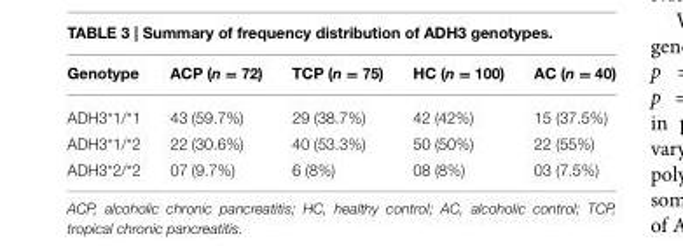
<table><thead><tr><td>Genotype</td><td>ACP (n = 72)</td><td>TCP (n = 75)</td><td>HC (n = 100)</td><td>AC (n = 40)</td></tr></thead><tbody><tr><td>ADH3*1/*1</td><td>43 (59.7%)</td><td>29 (38.7%)</td><td>42 (42%)</td><td>15 (37.5%)</td></tr><tr><td>ADH3*1/*2</td><td>22 (30.6%)</td><td>40 (53.3%)</td><td>50 (50%)</td><td>22 (55%)</td></tr><tr><td>ADH3*2/*2</td><td>07 (9.7%)</td><td>6 (8%)</td><td>08 (8%)</td><td>03 (7.5%)</td></tr></tbody></table>